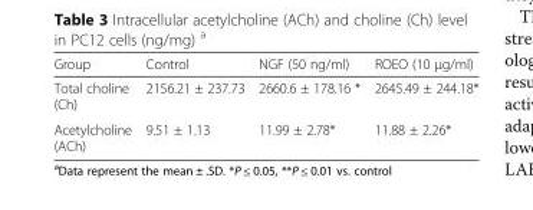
<table><thead><tr><td>Group</td><td>Control</td><td>NGF (50 ng/ml)</td><td>ROEO (10 μg/ml)</td></tr></thead><tbody><tr><td>Total choline (Ch)</td><td>2156.21 ± 237.73</td><td>2660.6 ± 178.16 *</td><td>2645.49 ± 244.18*</td></tr><tr><td>Acetylcholine (ACh)</td><td>9.51 ± 1.13</td><td>11.99 ± 2.78*</td><td>11.88 ± 2.26*</td></tr></tbody></table>